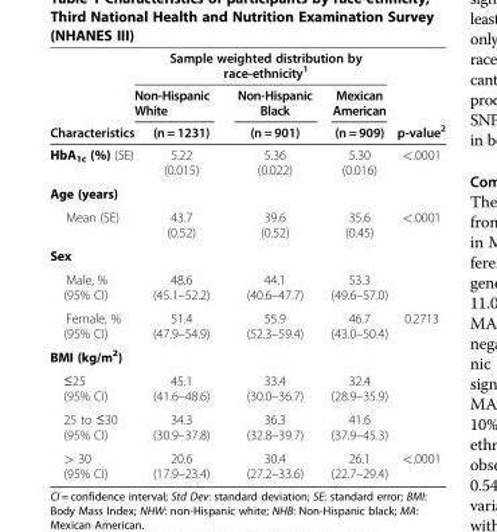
<table><thead><tr><td rowspan="3">Characteristics</td><td colspan="3">Sample weighted distribution by race-ethnicity<sup>1</sup></td><td rowspan="3">p-value<sup>2</sup></td></tr><tr><td rowspan="2">Non-Hispanic White (n = 1231)</td><td rowspan="2">Non-Hispanic Black (n = 901)</td><td rowspan="2">Mexican American (n = 909)</td></tr><tr></tr></thead><tbody><tr><td>HbA<sub>1c</sub> (%) (SE)</td><td>5.22 (0.015)</td><td>5.36 (0.022)</td><td>5.30 (0.016)</td><td>&lt;.0001</td></tr><tr><td colspan="5">Age (years)</td></tr><tr><td>Mean (SE)</td><td>43.7 (0.52)</td><td>39.6 (0.52)</td><td>35.6 (0.45)</td><td>&lt;.0001</td></tr><tr><td colspan="5">Sex</td></tr><tr><td>Male, % (95% CI)</td><td>48.6 (45.1–52.2)</td><td>44.1 (40.6–47.7)</td><td>53.3 (49.6–57.0)</td><td></td></tr><tr><td>Female, % (95% CI)</td><td>51.4 (47.9–54.9)</td><td>55.9 (52.3–59.4)</td><td>46.7 (43.0–50.4)</td><td>0.2713</td></tr><tr><td colspan="5">BMI (kg/m<sup>2</sup>)</td></tr><tr><td>≤25 (95% CI)</td><td>45.1 (41.6–48.6)</td><td>33.4 (30.0–36.7)</td><td>32.4 (28.9–35.9)</td><td></td></tr><tr><td>25 to ≤30 (95% CI)</td><td>34.3 (30.9–37.8)</td><td>36.3 (32.8–39.7)</td><td>41.6 (37.9–45.3)</td><td></td></tr><tr><td>&gt; 30 (95% CI)</td><td>20.6 (17.9–23.4)</td><td>30.4 (27.2–33.6)</td><td>26.1 (22.7–29.4)</td><td>&lt;.0001</td></tr></tbody></table>